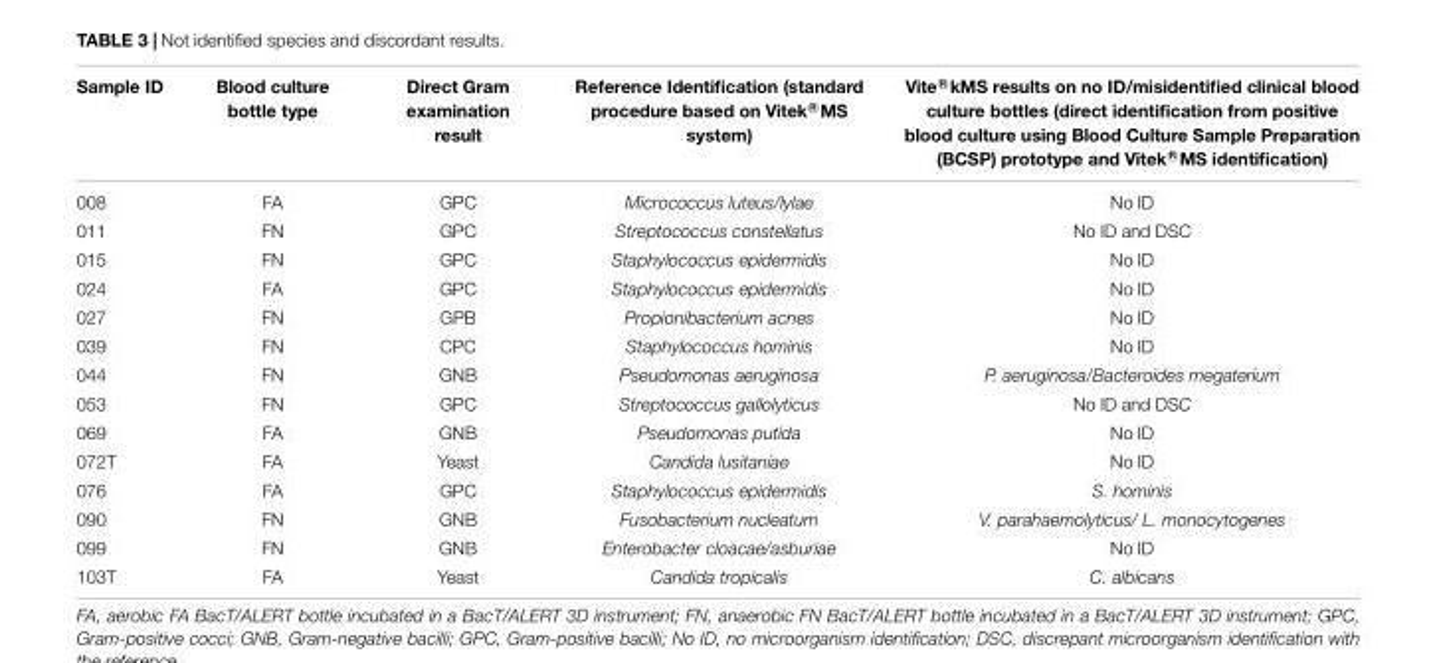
<table><thead><tr><td>Sample ID</td><td>Blood culture bottle type</td><td>Direct Gram examination result</td><td>Reference Identification (standard procedure based on Vitek R⃝MS system)</td><td>Vite R⃝kMS results on no ID/misidentified clinical blood culture bottles (direct identification from positive blood culture using Blood Culture Sample Preparation (BCSP) prototype and Vitek R⃝MS identification)</td></tr></thead><tbody><tr><td>008</td><td>FA</td><td>GPC</td><td>Micrococcus luteus/lylae</td><td>No ID</td></tr><tr><td>011</td><td>FN</td><td>GPC</td><td>Streptococcus constellatus</td><td>No ID and DSC</td></tr><tr><td>015</td><td>FN</td><td>GPC</td><td>Staphylococcus epidermidis</td><td>No ID</td></tr><tr><td>024</td><td>FA</td><td>GPC</td><td>Staphylococcus epidermidis</td><td>No ID</td></tr><tr><td>027</td><td>FN</td><td>GPB</td><td>Propionibacterium acnes</td><td>No ID</td></tr><tr><td>039</td><td>FN</td><td>CPC</td><td>Staphylococcus hominis</td><td>No ID</td></tr><tr><td>044</td><td>FN</td><td>GNB</td><td>Pseudomonas aeruginosa</td><td>P. aeruginosa/Bacteroides megaterium</td></tr><tr><td>053</td><td>FN</td><td>GPC</td><td>Streptococcus gallolyticus</td><td>No ID and DSC</td></tr><tr><td>069</td><td>FA</td><td>GNB</td><td>Pseudomonas putida</td><td>No ID</td></tr><tr><td>072T</td><td>FA</td><td>Yeast</td><td>Candida lusitaniae</td><td>No ID</td></tr><tr><td>076</td><td>FA</td><td>GPC</td><td>Staphylococcus epidermidis</td><td>S. hominis</td></tr><tr><td>090</td><td>FN</td><td>GNB</td><td>Fusobacterium nucleatum</td><td>V. parahaemolyticus/ L. monocytogenes</td></tr><tr><td>099</td><td>FN</td><td>GNB</td><td>Enterobacter cloacae/asburiae</td><td>No ID</td></tr><tr><td>103T</td><td>FA</td><td>Yeast</td><td>Candida tropicalis</td><td>C. albicans</td></tr></tbody></table>